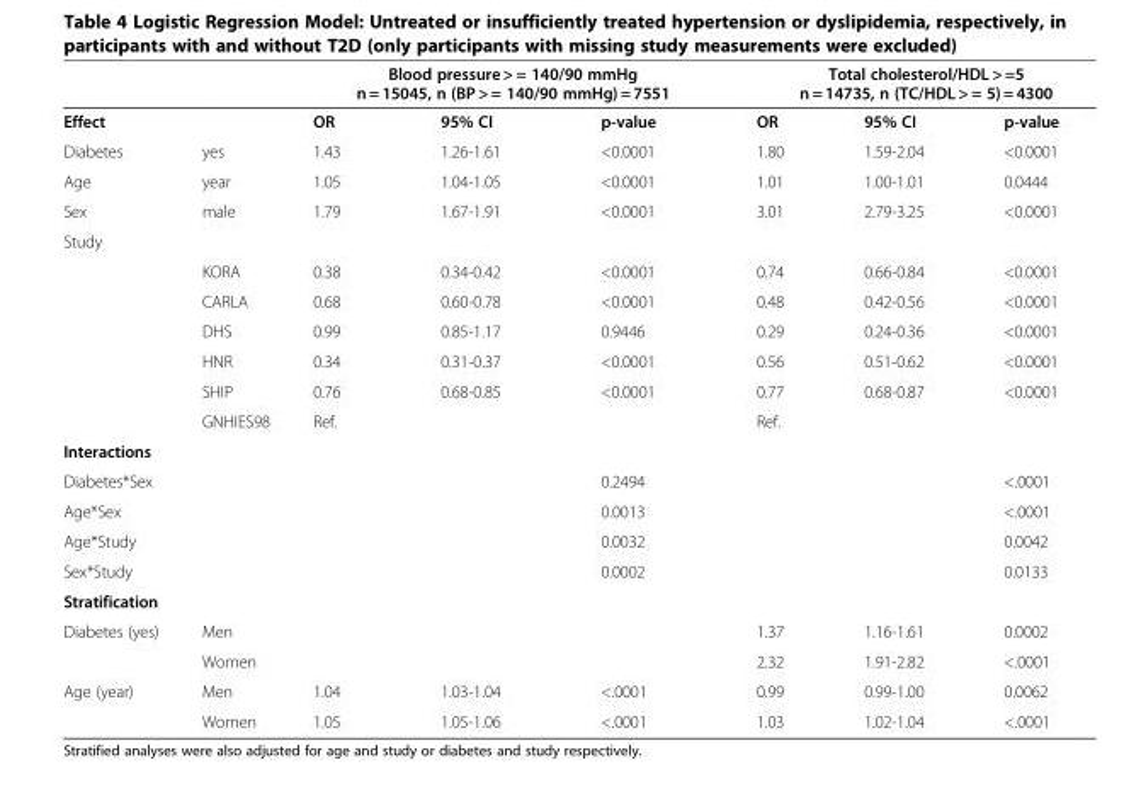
<table><thead><tr><td rowspan="2">Effect</td><td rowspan="2"></td><td colspan="3">Blood pressure &gt; = 140/90 mmHg n = 15045, n (BP &gt; = 140/90 mmHg) = 7551</td><td colspan="3">Total cholesterol/HDL &gt; =5 n = 14735, n (TC/HDL &gt; = 5) = 4300</td></tr><tr><td>OR</td><td>95% CI</td><td>p-value</td><td>OR</td><td>95% CI</td><td>p-value</td></tr></thead><tbody><tr><td>Diabetes</td><td>yes</td><td>1.43</td><td>1.26-1.61</td><td>&lt;0.0001</td><td>1.80</td><td>1.59-2.04</td><td>&lt;0.0001</td></tr><tr><td>Age</td><td>year</td><td>1.05</td><td>1.04-1.05</td><td>&lt;0.0001</td><td>1.01</td><td>1.00-1.01</td><td>0.0444</td></tr><tr><td>Sex</td><td>male</td><td>1.79</td><td>1.67-1.91</td><td>&lt;0.0001</td><td>3.01</td><td>2.79-3.25</td><td>&lt;0.0001</td></tr><tr><td colspan="8">Study</td></tr><tr><td></td><td>KORA</td><td>0.38</td><td>0.34-0.42</td><td>&lt;0.0001</td><td>0.74</td><td>0.66-0.84</td><td>&lt;0.0001</td></tr><tr><td></td><td>CARLA</td><td>0.68</td><td>0.60-0.78</td><td>&lt;0.0001</td><td>0.48</td><td>0.42-0.56</td><td>&lt;0.0001</td></tr><tr><td></td><td>DHS</td><td>0.99</td><td>0.85-1.17</td><td>0.9446</td><td>0.29</td><td>0.24-0.36</td><td>&lt;0.0001</td></tr><tr><td></td><td>HNR</td><td>0.34</td><td>0.31-0.37</td><td>&lt;0.0001</td><td>0.56</td><td>0.51-0.62</td><td>&lt;0.0001</td></tr><tr><td></td><td>SHIP</td><td>0.76</td><td>0.68-0.85</td><td>&lt;0.0001</td><td>0.77</td><td>0.68-0.87</td><td>&lt;0.0001</td></tr><tr><td></td><td>GNHIES98</td><td>Ref.</td><td></td><td></td><td>Ref.</td><td></td><td></td></tr><tr><td colspan="8">Interactions</td></tr><tr><td>Diabetes*Sex</td><td></td><td></td><td></td><td>0.2494</td><td></td><td></td><td>&lt;.0001</td></tr><tr><td>Age*Sex</td><td></td><td></td><td></td><td>0.0013</td><td></td><td></td><td>&lt;.0001</td></tr><tr><td>Age*Study</td><td></td><td></td><td></td><td>0.0032</td><td></td><td></td><td>0.0042</td></tr><tr><td>Sex*Study</td><td></td><td></td><td></td><td>0.0002</td><td></td><td></td><td>0.0133</td></tr><tr><td colspan="8">Stratification</td></tr><tr><td rowspan="2">Diabetes (yes)</td><td>Men</td><td></td><td></td><td></td><td>1.37</td><td>1.16-1.61</td><td>0.0002</td></tr><tr><td>Women</td><td></td><td></td><td></td><td>2.32</td><td>1.91-2.82</td><td>&lt;.0001</td></tr><tr><td rowspan="2">Age (year)</td><td>Men</td><td>1.04</td><td>1.03-1.04</td><td>&lt;.0001</td><td>0.99</td><td>0.99-1.00</td><td>0.0062</td></tr><tr><td>Women</td><td>1.05</td><td>1.05-1.06</td><td>&lt;.0001</td><td>1.03</td><td>1.02-1.04</td><td>&lt;.0001</td></tr></tbody></table>